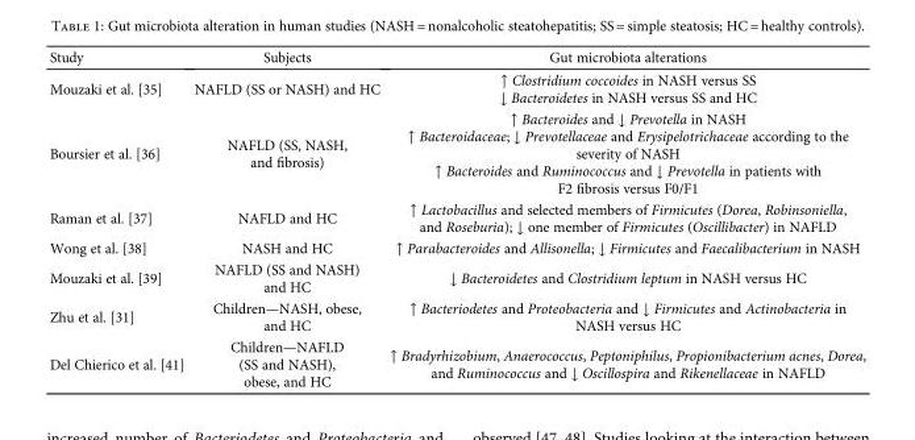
<table><thead><tr><td>Study</td><td>Subjects</td><td>Gut microbiota alterations</td></tr></thead><tbody><tr><td>Mouzaki et al. [35]</td><td>NAFLD (SS or NASH) and HC</td><td>↑ Clostridium coccoides in NASH versus SS ↓ Bacteroidetes in NASH versus SS and HC</td></tr><tr><td>Boursier et al. [36]</td><td>NAFLD (SS, NASH, and fibrosis)</td><td>↑ Bacteroides and ↓ Prevotella in NASH ↑ Bacteroidaceae; ↓ Prevotellaceae and Erysipelotrichaceae according to the severity of NASH ↑ Bacteroides and Ruminococcus and ↓ Prevotella in patients with F2 fibrosis versus F0/F1</td></tr><tr><td>Raman et al. [37]</td><td>NAFLD and HC</td><td>↑ Lactobacillus and selected members of Firmicutes (Dorea, Robinsoniella, and Roseburia); ↓ one member of Firmicutes (Oscillibacter) in NAFLD</td></tr><tr><td>Wong et al. [38]</td><td>NASH and HC</td><td>↑ Parabacteroides and Allisonella; ↓ Firmicutes and Faecalibacterium in NASH</td></tr><tr><td>Mouzaki et al. [39]</td><td>NAFLD (SS and NASH) and HC</td><td>↓ Bacteroidetes and Clostridium leptum in NASH versus HC</td></tr><tr><td>Zhu et al. [31]</td><td>Children—NASH, obese, and HC</td><td>↑ Bacteriodetes and Proteobacteria and ↓ Firmicutes and Actinobacteria in NASH versus HC</td></tr><tr><td>Del Chierico et al. [41]</td><td>Children—NAFLD (SS and NASH), obese, and HC</td><td>↑ Bradyrhizobium, Anaerococcus, Peptoniphilus, Propionibacterium acnes, Dorea, and Ruminococcus and ↓ Oscillospira and Rikenellaceae in NAFLD</td></tr></tbody></table>